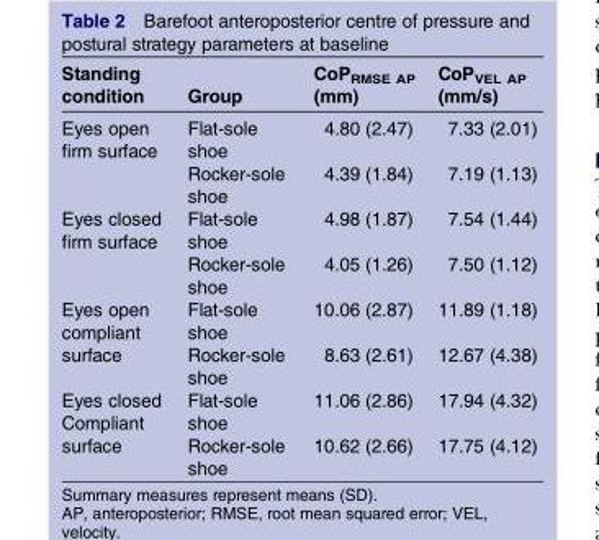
<table><thead><tr><td>Standing condition</td><td>Group</td><td>CoP<sub>RMSE AP</sub> (mm)</td><td>CoP<sub>VEL AP</sub> (mm/s)</td></tr></thead><tbody><tr><td rowspan="2">Eyes open firm surface</td><td>Flat-sole shoe</td><td>4.80 (2.47)</td><td>7.33 (2.01)</td></tr><tr><td>Rocker-sole shoe</td><td>4.39 (1.84)</td><td>7.19 (1.13)</td></tr><tr><td rowspan="2">Eyes closed firm surface</td><td>Flat-sole shoe</td><td>4.98 (1.87)</td><td>7.54 (1.44)</td></tr><tr><td>Rocker-sole shoe</td><td>4.05 (1.26)</td><td>7.50 (1.12)</td></tr><tr><td rowspan="2">Eyes open compliant surface</td><td>Flat-sole shoe</td><td>10.06 (2.87)</td><td>11.89 (1.18)</td></tr><tr><td>Rocker-sole shoe</td><td>8.63 (2.61)</td><td>12.67 (4.38)</td></tr><tr><td rowspan="2">Eyes closed Compliant surface</td><td>Flat-sole shoe</td><td>11.06 (2.86)</td><td>17.94 (4.32)</td></tr><tr><td>Rocker-sole shoe</td><td>10.62 (2.66)</td><td>17.75 (4.12)</td></tr></tbody></table>